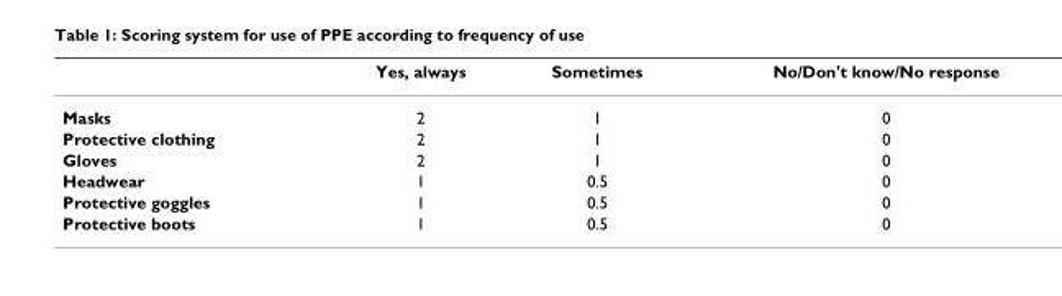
<table><thead><tr><td></td><td>Yes, always</td><td>Sometimes</td><td>No/Don&#x27;t know/No response</td></tr></thead><tbody><tr><td>Masks</td><td>2</td><td>1</td><td>0</td></tr><tr><td>Protective clothing</td><td>2</td><td>1</td><td>0</td></tr><tr><td>Gloves</td><td>2</td><td>1</td><td>0</td></tr><tr><td>Headwear</td><td>1</td><td>0.5</td><td>0</td></tr><tr><td>Protective goggles</td><td>1</td><td>0.5</td><td>0</td></tr><tr><td>Protective boots</td><td>1</td><td>0.5</td><td>0</td></tr></tbody></table>